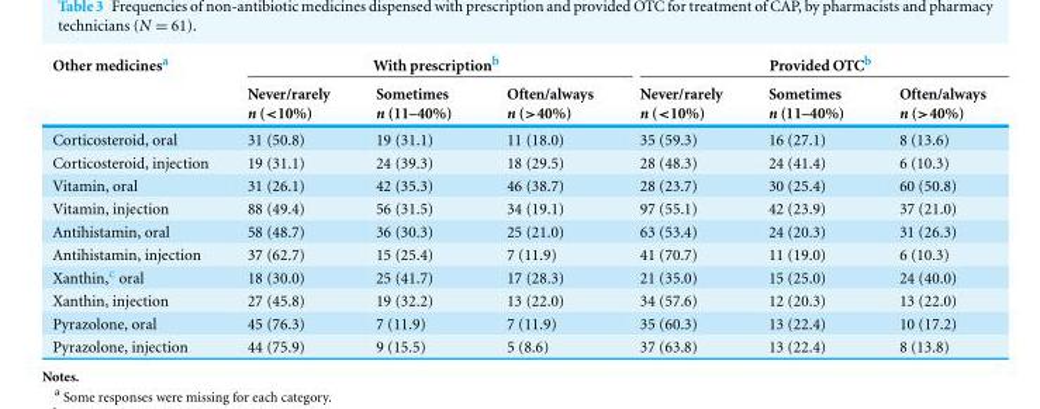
<table><thead><tr><td rowspan="2">Other medicines<sup>a</sup></td><td colspan="3">With prescription<sup>b</sup></td><td colspan="3">Provided OTC<sup>b</sup></td></tr><tr><td>Never/rarely n (&lt;10%)</td><td>Sometimes n (11–40%)</td><td>Often/always n (&gt;40%)</td><td>Never/rarely n (&lt;10%)</td><td>Sometimes n (11–40%)</td><td>Often/always n (&gt;40%)</td></tr></thead><tbody><tr><td>Corticosteroid, oral</td><td>31 (50.8)</td><td>19 (31.1)</td><td>11 (18.0)</td><td>35 (59.3)</td><td>16 (27.1)</td><td>8 (13.6)</td></tr><tr><td>Corticosteroid, injection</td><td>19 (31.1)</td><td>24 (39.3)</td><td>18 (29.5)</td><td>28 (48.3)</td><td>24 (41.4)</td><td>6 (10.3)</td></tr><tr><td>Vitamin, oral</td><td>31 (26.1)</td><td>42 (35.3)</td><td>46 (38.7)</td><td>28 (23.7)</td><td>30 (25.4)</td><td>60 (50.8)</td></tr><tr><td>Vitamin, injection</td><td>88 (49.4)</td><td>56 (31.5)</td><td>34 (19.1)</td><td>97 (55.1)</td><td>42 (23.9)</td><td>37 (21.0)</td></tr><tr><td>Antihistamin, oral</td><td>58 (48.7)</td><td>36 (30.3)</td><td>25 (21.0)</td><td>63 (53.4)</td><td>24 (20.3)</td><td>31 (26.3)</td></tr><tr><td>Antihistamin, injection</td><td>37 (62.7)</td><td>15 (25.4)</td><td>7 (11.9)</td><td>41 (70.7)</td><td>11 (19.0)</td><td>6 (10.3)</td></tr><tr><td>Xanthin,<sup>c</sup> oral</td><td>18 (30.0)</td><td>25 (41.7)</td><td>17 (28.3)</td><td>21 (35.0)</td><td>15 (25.0)</td><td>24 (40.0)</td></tr><tr><td>Xanthin, injection</td><td>27 (45.8)</td><td>19 (32.2)</td><td>13 (22.0)</td><td>34 (57.6)</td><td>12 (20.3)</td><td>13 (22.0)</td></tr><tr><td>Pyrazolone, oral</td><td>45 (76.3)</td><td>7 (11.9)</td><td>7 (11.9)</td><td>35 (60.3)</td><td>13 (22.4)</td><td>10 (17.2)</td></tr><tr><td>Pyrazolone, injection</td><td>44 (75.9)</td><td>9 (15.5)</td><td>5 (8.6)</td><td>37 (63.8)</td><td>13 (22.4)</td><td>8 (13.8)</td></tr></tbody></table>